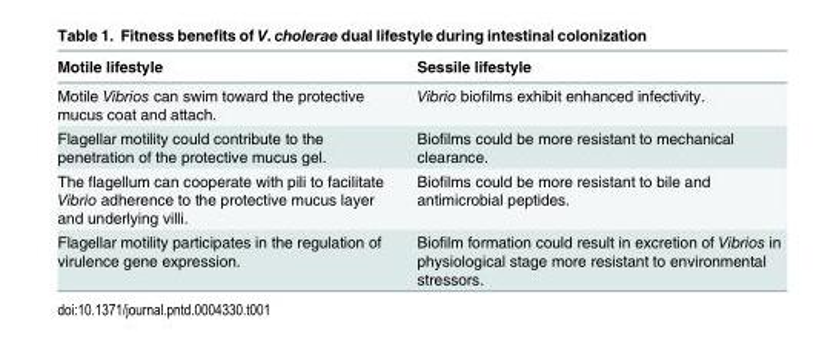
<table><thead><tr><td>Motile lifestyle</td><td>Sessile lifestyle</td></tr></thead><tbody><tr><td>Motile Vibrios can swim toward the protective mucus coat and attach.</td><td>Vibrio biofilms exhibit enhanced infectivity.</td></tr><tr><td>Flagellar motility could contribute to the penetration of the protective mucus gel.</td><td>Biofilms could be more resistant to mechanical clearance.</td></tr><tr><td>The flagellum can cooperate with pili to facilitate Vibrio adherence to the protective mucus layer and underlying villi.</td><td>Biofilms could be more resistant to bile and antimicrobial peptides.</td></tr><tr><td>Flagellar motility participates in the regulation of virulence gene expression.</td><td>Biofilm formation could result in excretion of Vibrios in physiological stage more resistant to environmental stressors.</td></tr></tbody></table>